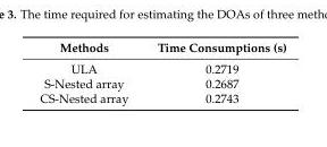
<table><thead><tr><td>Methods</td><td>Time Consumptions (s)</td></tr></thead><tbody><tr><td>ULA</td><td>0.2719</td></tr><tr><td>S-Nested array</td><td>0.2687</td></tr><tr><td>CS-Nested array</td><td>0.2743</td></tr></tbody></table>